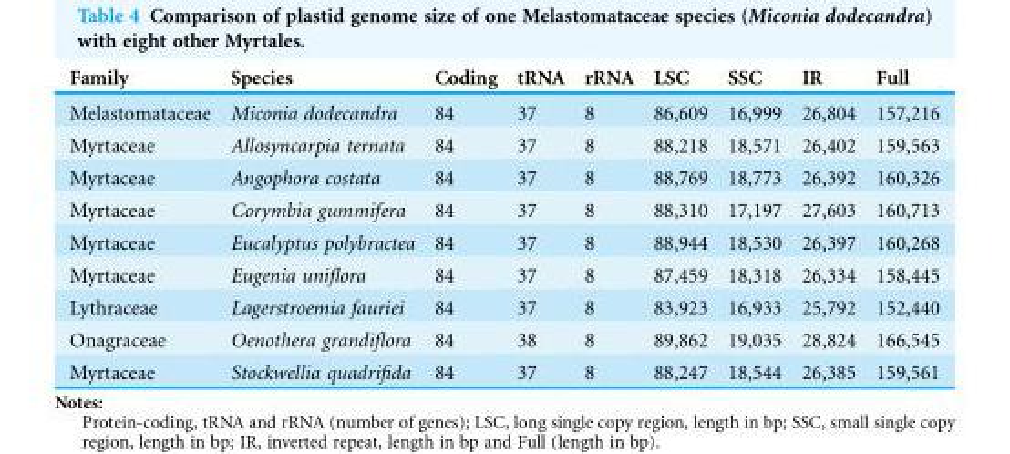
<table><thead><tr><td>Family</td><td>Species</td><td>Coding</td><td>tRNA</td><td>rRNA</td><td>LSC</td><td>SSC</td><td>IR</td><td>Full</td></tr></thead><tbody><tr><td>Melastomataceae</td><td>Miconia dodecandra</td><td>84</td><td>37</td><td>8</td><td>86,609</td><td>16,999</td><td>26,804</td><td>157,216</td></tr><tr><td>Myrtaceae</td><td>Allosyncarpia ternata</td><td>84</td><td>37</td><td>8</td><td>88,218</td><td>18,571</td><td>26,402</td><td>159,563</td></tr><tr><td>Myrtaceae</td><td>Angophora costata</td><td>84</td><td>37</td><td>8</td><td>88,769</td><td>18,773</td><td>26,392</td><td>160,326</td></tr><tr><td>Myrtaceae</td><td>Corymbia gummifera</td><td>84</td><td>37</td><td>8</td><td>88,310</td><td>17,197</td><td>27,603</td><td>160,713</td></tr><tr><td>Myrtaceae</td><td>Eucalyptus polybractea</td><td>84</td><td>37</td><td>8</td><td>88,944</td><td>18,530</td><td>26,397</td><td>160,268</td></tr><tr><td>Myrtaceae</td><td>Eugenia uniflora</td><td>84</td><td>37</td><td>8</td><td>87,459</td><td>18,318</td><td>26,334</td><td>158,445</td></tr><tr><td>Lythraceae</td><td>Lagerstroemia fauriei</td><td>84</td><td>37</td><td>8</td><td>83,923</td><td>16,933</td><td>25,792</td><td>152,440</td></tr><tr><td>Onagraceae</td><td>Oenothera grandiflora</td><td>84</td><td>38</td><td>8</td><td>89,862</td><td>19,035</td><td>28,824</td><td>166,545</td></tr><tr><td>Myrtaceae</td><td>Stockwellia quadrifida</td><td>84</td><td>37</td><td>8</td><td>88,247</td><td>18,544</td><td>26,385</td><td>159,561</td></tr></tbody></table>